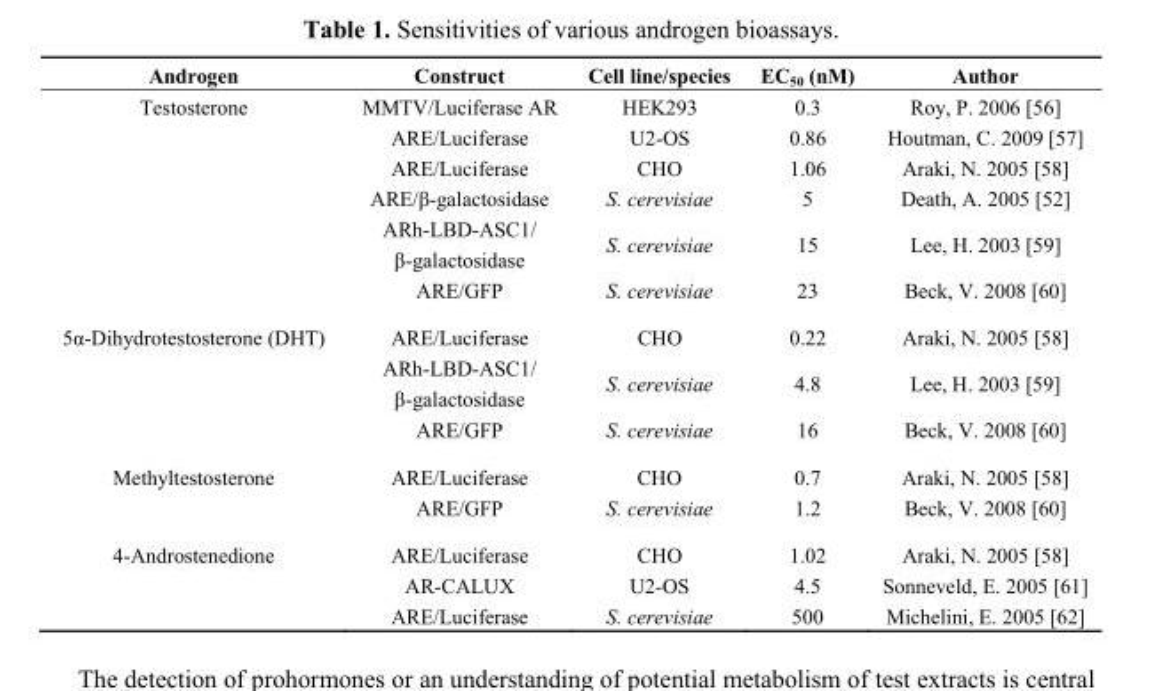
<table><thead><tr><td>Androgen</td><td>Construct</td><td>Cell line/species</td><td>EC<sub>50</sub> (nM)</td><td>Author</td></tr></thead><tbody><tr><td rowspan="6">Testosterone</td><td>MMTV/Luciferase AR</td><td>HEK293</td><td>0.3</td><td>Roy, P. 2006 [56]</td></tr><tr><td>ARE/Luciferase</td><td>U2-OS</td><td>0.86</td><td>Houtman, C. 2009 [57]</td></tr><tr><td>ARE/Luciferase</td><td>CHO</td><td>1.06</td><td>Araki, N. 2005 [58]</td></tr><tr><td>ARE/β-galactosidase</td><td>S. cerevisiae</td><td>5</td><td>Death, A. 2005 [52]</td></tr><tr><td>ARh-LBD-ASC1/ β-galactosidase</td><td>S. cerevisiae</td><td>15</td><td>Lee, H. 2003 [59]</td></tr><tr><td>ARE/GFP</td><td>S. cerevisiae</td><td>23</td><td>Beck, V. 2008 [60]</td></tr><tr><td rowspan="3">5α-Dihydrotestosterone (DHT)</td><td>ARE/Luciferase</td><td>CHO</td><td>0.22</td><td>Araki, N. 2005 [58]</td></tr><tr><td>ARh-LBD-ASC1/ β-galactosidase</td><td>S. cerevisiae</td><td>4.8</td><td>Lee, H. 2003 [59]</td></tr><tr><td>ARE/GFP</td><td>S. cerevisiae</td><td>16</td><td>Beck, V. 2008 [60]</td></tr><tr><td rowspan="2">Methyltestosterone</td><td>ARE/Luciferase</td><td>CHO</td><td>0.7</td><td>Araki, N. 2005 [58]</td></tr><tr><td>ARE/GFP</td><td>S. cerevisiae</td><td>1.2</td><td>Beck, V. 2008 [60]</td></tr><tr><td rowspan="3">4-Androstenedione</td><td>ARE/Luciferase</td><td>CHO</td><td>1.02</td><td>Araki, N. 2005 [58]</td></tr><tr><td>AR-CALUX</td><td>U2-OS</td><td>4.5</td><td>Sonneveld, E. 2005 [61]</td></tr><tr><td>ARE/Luciferase</td><td>S. cerevisiae</td><td>500</td><td>Michelini, E. 2005 [62]</td></tr></tbody></table>